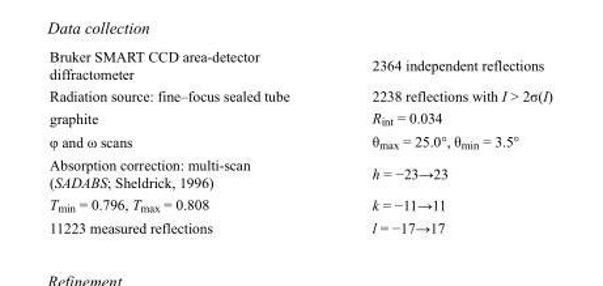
<table><tbody><tr><td>Bruker SMART CCD area-detector diffractometer</td><td>2364 independent reflections</td></tr><tr><td>Radiation source: fine–focus sealed tube</td><td>2238 reflections with I &gt; 2σ(I)</td></tr><tr><td>graphite</td><td>R<sub>int</sub> = 0.034</td></tr><tr><td>φ and ω scans</td><td>θ<sub>max</sub> = 25.0°, θ<sub>min</sub> = 3.5°</td></tr><tr><td>Absorption correction: multi-scan (SADABS; Sheldrick, 1996)</td><td>h = −23→23</td></tr><tr><td>T<sub>min</sub> = 0.796, T<sub>max</sub> = 0.808</td><td>k = −11→11</td></tr><tr><td>11223 measured reflections</td><td>l = −17→17</td></tr></tbody></table>